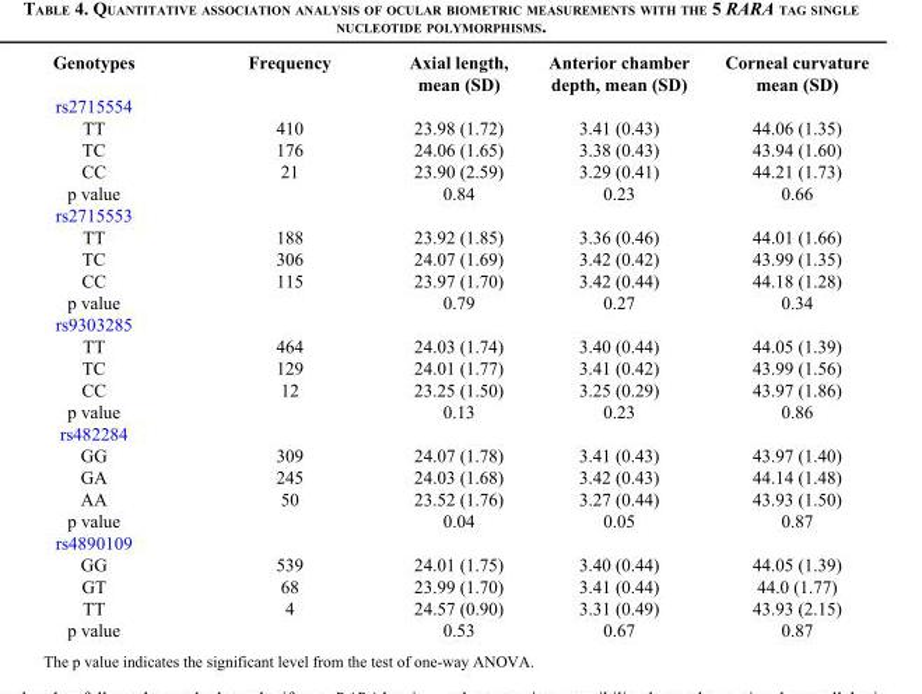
<table><thead><tr><td>Genotypes</td><td>Frequency</td><td>Axial length, mean (SD)</td><td>Anterior chamber depth, mean (SD)</td><td>Corneal curvature mean (SD)</td></tr></thead><tbody><tr><td colspan="5">rs2715554</td></tr><tr><td>TT</td><td>410</td><td>23.98 (1.72)</td><td>3.41 (0.43)</td><td>44.06 (1.35)</td></tr><tr><td>TC</td><td>176</td><td>24.06 (1.65)</td><td>3.38 (0.43)</td><td>43.94 (1.60)</td></tr><tr><td>CC</td><td>21</td><td>23.90 (2.59)</td><td>3.29 (0.41)</td><td>44.21 (1.73)</td></tr><tr><td>p value</td><td></td><td>0.84</td><td>0.23</td><td>0.66</td></tr><tr><td colspan="5">rs2715553</td></tr><tr><td>TT</td><td>188</td><td>23.92 (1.85)</td><td>3.36 (0.46)</td><td>44.01 (1.66)</td></tr><tr><td>TC</td><td>306</td><td>24.07 (1.69)</td><td>3.42 (0.42)</td><td>43.99 (1.35)</td></tr><tr><td>CC</td><td>115</td><td>23.97 (1.70)</td><td>3.42 (0.44)</td><td>44.18 (1.28)</td></tr><tr><td>p value</td><td></td><td>0.79</td><td>0.27</td><td>0.34</td></tr><tr><td colspan="5">rs9303285</td></tr><tr><td>TT</td><td>464</td><td>24.03 (1.74)</td><td>3.40 (0.44)</td><td>44.05 (1.39)</td></tr><tr><td>TC</td><td>129</td><td>24.01 (1.77)</td><td>3.41 (0.42)</td><td>43.99 (1.56)</td></tr><tr><td>CC</td><td>12</td><td>23.25 (1.50)</td><td>3.25 (0.29)</td><td>43.97 (1.86)</td></tr><tr><td>p value</td><td></td><td>0.13</td><td>0.23</td><td>0.86</td></tr><tr><td colspan="5">rs482284</td></tr><tr><td>GG</td><td>309</td><td>24.07 (1.78)</td><td>3.41 (0.43)</td><td>43.97 (1.40)</td></tr><tr><td>GA</td><td>245</td><td>24.03 (1.68)</td><td>3.42 (0.43)</td><td>44.14 (1.48)</td></tr><tr><td>AA</td><td>50</td><td>23.52 (1.76)</td><td>3.27 (0.44)</td><td>43.93 (1.50)</td></tr><tr><td>p value</td><td></td><td>0.04</td><td>0.05</td><td>0.87</td></tr><tr><td colspan="5">rs4890109</td></tr><tr><td>GG</td><td>539</td><td>24.01 (1.75)</td><td>3.40 (0.44)</td><td>44.05 (1.39)</td></tr><tr><td>GT</td><td>68</td><td>23.99 (1.70)</td><td>3.41 (0.44)</td><td>44.0 (1.77)</td></tr><tr><td>TT</td><td>4</td><td>24.57 (0.90)</td><td>3.31 (0.49)</td><td>43.93 (2.15)</td></tr><tr><td>p value</td><td></td><td>0.53</td><td>0.67</td><td>0.87</td></tr></tbody></table>